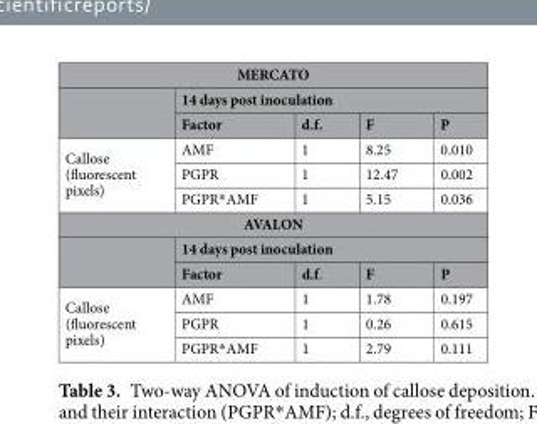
<table><thead><tr><td colspan="5">MERCATO</td></tr><tr><td rowspan="2"></td><td colspan="4">14 days post inoculation</td></tr><tr><td>Factor</td><td>d.f.</td><td>F</td><td>P</td></tr></thead><tbody><tr><td rowspan="3">Callose (fluorescent pixels)</td><td>AMF</td><td>1</td><td>8.25</td><td>0.010</td></tr><tr><td>PGPR</td><td>1</td><td>12.47</td><td>0.002</td></tr><tr><td>PGPR*AMF</td><td>1</td><td>5.15</td><td>0.036</td></tr><tr><td colspan="5">AVALON</td></tr><tr><td rowspan="2"></td><td colspan="4">14 days post inoculation</td></tr><tr><td>Factor</td><td>d.f.</td><td>F</td><td>P</td></tr><tr><td rowspan="3">Callose (fluorescent pixels)</td><td>AMF</td><td>1</td><td>1.78</td><td>0.197</td></tr><tr><td>PGPR</td><td>1</td><td>0.26</td><td>0.615</td></tr><tr><td>PGPR*AMF</td><td>1</td><td>2.79</td><td>0.111</td></tr></tbody></table>